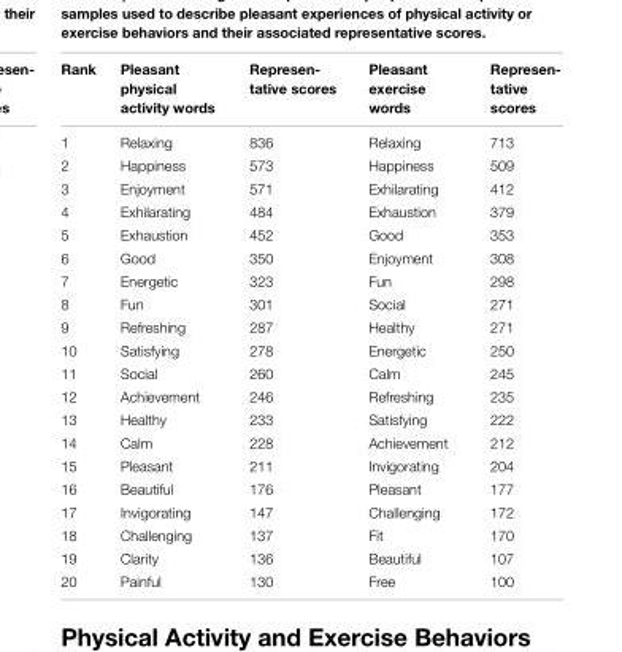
<table><thead><tr><td>Rank</td><td>Pleasant physical activity words</td><td>Represen- tative scores</td><td>Pleasant exercise words</td><td>Represen- tative scores</td></tr></thead><tbody><tr><td>1</td><td>Relaxing</td><td>836</td><td>Relaxing</td><td>713</td></tr><tr><td>2</td><td>Happiness</td><td>573</td><td>Happiness</td><td>509</td></tr><tr><td>3</td><td>Enjoyment</td><td>571</td><td>Exhilarating</td><td>412</td></tr><tr><td>4</td><td>Exhilarating</td><td>484</td><td>Exhaustion</td><td>379</td></tr><tr><td>5</td><td>Exhaustion</td><td>452</td><td>Good</td><td>353</td></tr><tr><td>6</td><td>Good</td><td>350</td><td>Enjoyment</td><td>308</td></tr><tr><td>7</td><td>Energetic</td><td>323</td><td>Fun</td><td>298</td></tr><tr><td>8</td><td>Fun</td><td>301</td><td>Social</td><td>271</td></tr><tr><td>9</td><td>Refreshing</td><td>287</td><td>Healthy</td><td>271</td></tr><tr><td>10</td><td>Satisfying</td><td>278</td><td>Energetic</td><td>250</td></tr><tr><td>11</td><td>Social</td><td>260</td><td>Calm</td><td>245</td></tr><tr><td>12</td><td>Achievement</td><td>246</td><td>Refreshing</td><td>235</td></tr><tr><td>13</td><td>Healthy</td><td>233</td><td>Satisfying</td><td>222</td></tr><tr><td>14</td><td>Calm</td><td>228</td><td>Achievement</td><td>212</td></tr><tr><td>15</td><td>Pleasant</td><td>211</td><td>Invigorating</td><td>204</td></tr><tr><td>16</td><td>Beautiful</td><td>176</td><td>Pleasant</td><td>177</td></tr><tr><td>17</td><td>Invigorating</td><td>147</td><td>Challenging</td><td>172</td></tr><tr><td>18</td><td>Challenging</td><td>137</td><td>Fit</td><td>170</td></tr><tr><td>19</td><td>Clarity</td><td>136</td><td>Beautiful</td><td>107</td></tr><tr><td>20</td><td>Painful</td><td>130</td><td>Free</td><td>100</td></tr></tbody></table>